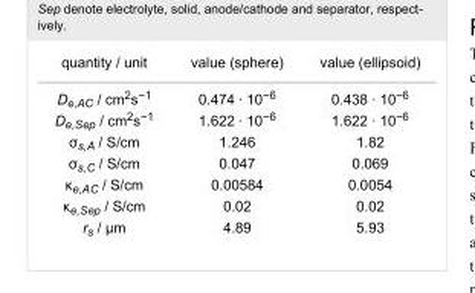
<table><tbody><tr><td>quantity / unit</td><td>value (sphere)</td><td>value (ellipsoid)</td></tr><tr><td>D<sub>e,AC</sub> / cm<sup>2</sup>s<sup>−1</sup></td><td>0.474 · 10<sup>−6</sup></td><td>0.438 · 10<sup>−6</sup></td></tr><tr><td>D<sub>e,Sep</sub> / cm<sup>2</sup>s<sup>−1</sup></td><td>1.622 · 10<sup>−6</sup></td><td>1.622 · 10<sup>−6</sup></td></tr><tr><td>σ<sub>s,A</sub> / S/cm</td><td>1.246</td><td>1.82</td></tr><tr><td>σ<sub>s,C</sub> / S/cm</td><td>0.047</td><td>0.069</td></tr><tr><td>κ<sub>e,AC</sub> / S/cm</td><td>0.00584</td><td>0.0054</td></tr><tr><td>κ<sub>e,Sep</sub> / S/cm</td><td>0.02</td><td>0.02</td></tr><tr><td>r<sub>s</sub> / μm</td><td>4.89</td><td>5.93</td></tr></tbody></table>